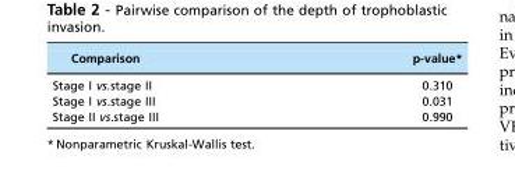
<table><thead><tr><td>Comparison</td><td>p-value*</td></tr></thead><tbody><tr><td>Stage I vs.stage II</td><td>0.310</td></tr><tr><td>Stage I vs.stage III</td><td>0.031</td></tr><tr><td>Stage II vs.stage III</td><td>0.990</td></tr></tbody></table>